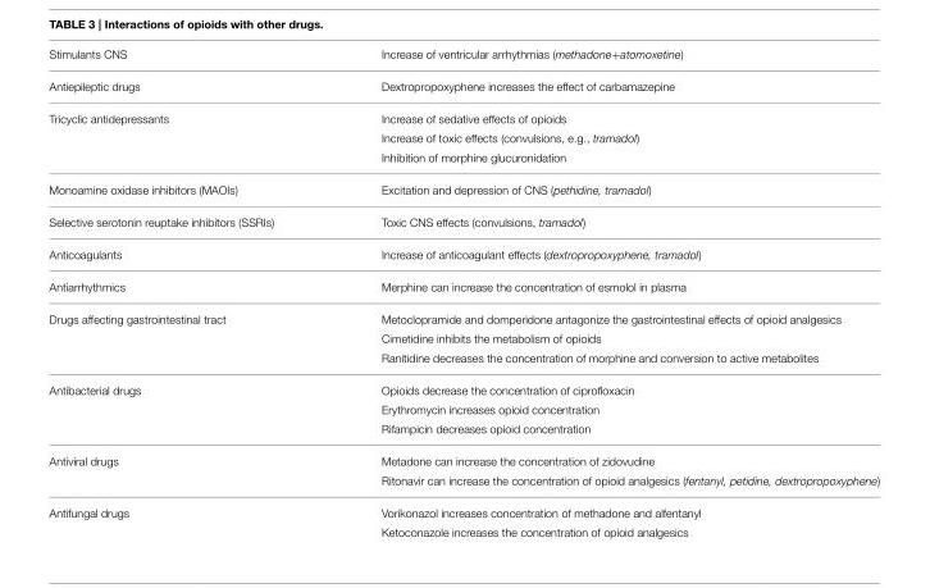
<table><tbody><tr><td>Stimulants CNS</td><td>Increase of ventricular arrhythmias (methadone+atomoxetine)</td></tr><tr><td>Antiepileptic drugs</td><td>Dextropropoxyphene increases the effect of carbamazepine</td></tr><tr><td rowspan="3">Tricyclic antidepressants</td><td>Increase of sedative effects of opioids</td></tr><tr><td>Increase of toxic effects (convulsions, e.g., tramadol)</td></tr><tr><td>Inhibition of morphine glucuronidation</td></tr><tr><td>Monoamine oxidase inhibitors (MAOIs)</td><td>Excitation and depression of CNS (pethidine, tramadol)</td></tr><tr><td>Selective serotonin reuptake inhibitors (SSRIs)</td><td>Toxic CNS effects (convulsions, tramadol)</td></tr><tr><td>Anticoagulants</td><td>Increase of anticoagulant effects (dextropropoxyphene, tramadol)</td></tr><tr><td>Antiarrhythmics</td><td>Merphine can increase the concentration of esmolol in plasma</td></tr><tr><td rowspan="3">Drugs affecting gastrointestinal tract</td><td>Metoclopramide and domperidone antagonize the gastrointestinal effects of opioid analgesics</td></tr><tr><td>Cimetidine inhibits the metabolism of opioids</td></tr><tr><td>Ranitidine decreases the concentration of morphine and conversion to active metabolites</td></tr><tr><td rowspan="3">Antibacterial drugs</td><td>Opioids decrease the concentration of ciprofloxacin</td></tr><tr><td>Erythromycin increases opioid concentration</td></tr><tr><td>Rifampicin decreases opioid concentration</td></tr><tr><td rowspan="2">Antiviral drugs</td><td>Metadone can increase the concentration of zidovudine</td></tr><tr><td>Ritonavir can increase the concentration of opioid analgesics (fentanyl, petidine, dextropropoxyphene)</td></tr><tr><td rowspan="2">Antifungal drugs</td><td>Vorikonazol increases concentration of methadone and alfentanyl</td></tr><tr><td>Ketoconazole increases the concentration of opioid analgesics</td></tr></tbody></table>